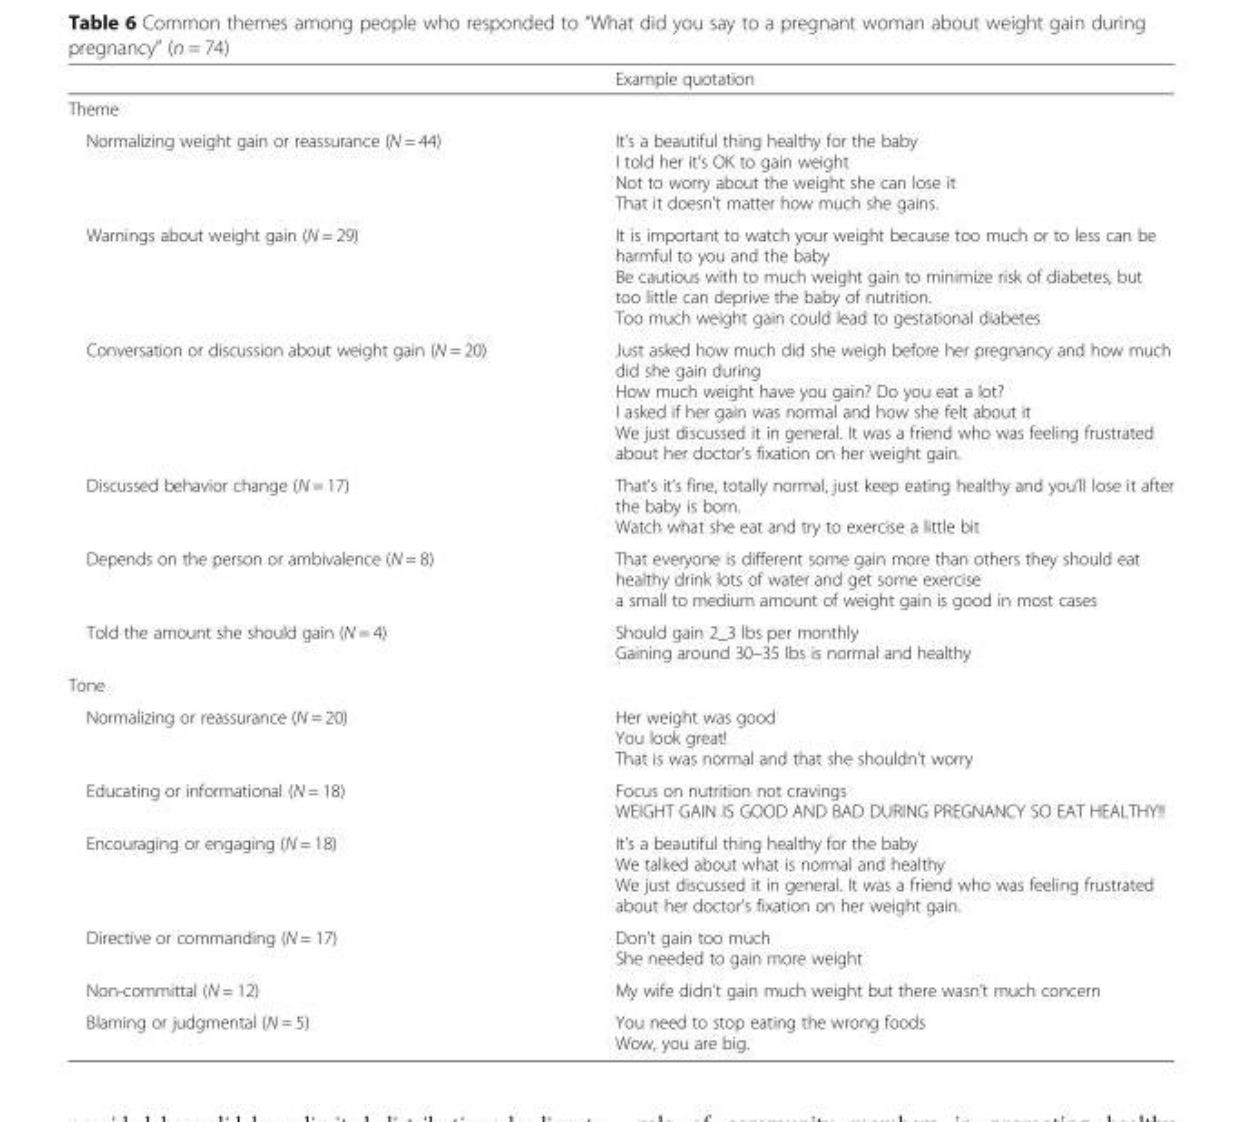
<table><thead><tr><td></td><td>Example quotation</td></tr></thead><tbody><tr><td colspan="2">Theme</td></tr><tr><td>Normalizing weight gain or reassurance (N = 44)</td><td>It’s a beautiful thing healthy for the baby I told her it’s OK to gain weight Not to worry about the weight she can lose it That it doesn’t matter how much she gains.</td></tr><tr><td>Warnings about weight gain (N = 29)</td><td>It is important to watch your weight because too much or to less can be harmful to you and the baby Be cautious with to much weight gain to minimize risk of diabetes, but too little can deprive the baby of nutrition. Too much weight gain could lead to gestational diabetes</td></tr><tr><td>Conversation or discussion about weight gain (N = 20)</td><td>Just asked how much did she weigh before her pregnancy and how much did she gain during How much weight have you gain? Do you eat a lot? I asked if her gain was normal and how she felt about it We just discussed it in general. It was a friend who was feeling frustrated about her doctor’s fixation on her weight gain.</td></tr><tr><td>Discussed behavior change (N = 17)</td><td>That’s it’s fine, totally normal, just keep eating healthy and you’ll lose it after the baby is born. Watch what she eat and try to exercise a little bit</td></tr><tr><td>Depends on the person or ambivalence (N = 8)</td><td>That everyone is different some gain more than others they should eat healthy drink lots of water and get some exercise a small to medium amount of weight gain is good in most cases</td></tr><tr><td>Told the amount she should gain (N = 4)</td><td>Should gain 2_3 lbs per monthly Gaining around 30–35 lbs is normal and healthy</td></tr><tr><td colspan="2">Tone</td></tr><tr><td>Normalizing or reassurance (N = 20)</td><td>Her weight was good You look great! That is was normal and that she shouldn’t worry</td></tr><tr><td>Educating or informational (N = 18)</td><td>Focus on nutrition not cravings WEIGHT GAIN IS GOOD AND BAD DURING PREGNANCY SO EAT HEALTHY!!</td></tr><tr><td>Encouraging or engaging (N = 18)</td><td>It’s a beautiful thing healthy for the baby We talked about what is normal and healthy We just discussed it in general. It was a friend who was feeling frustrated about her doctor’s fixation on her weight gain.</td></tr><tr><td>Directive or commanding (N = 17)</td><td>Don’t gain too much She needed to gain more weight</td></tr><tr><td>Non-committal (N = 12)</td><td>My wife didn’t gain much weight but there wasn’t much concern</td></tr><tr><td>Blaming or judgmental (N = 5)</td><td>You need to stop eating the wrong foods Wow, you are big.</td></tr></tbody></table>